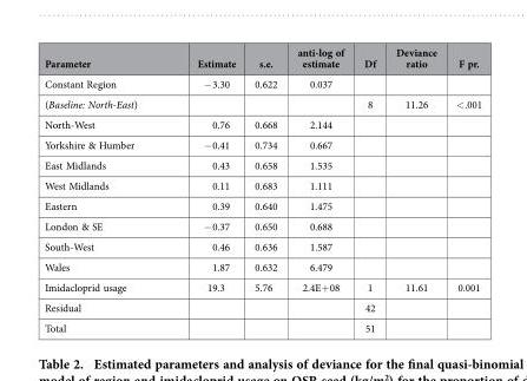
<table><thead><tr><td>Parameter</td><td>Estimate</td><td>s.e.</td><td>anti-log of estimate</td><td>Df</td><td>Deviance ratio</td><td>F pr.</td></tr></thead><tbody><tr><td>Constant Region</td><td>− 3.30</td><td>0.622</td><td>0.037</td><td></td><td></td><td></td></tr><tr><td>(Baseline: North-East)</td><td></td><td></td><td></td><td>8</td><td>11.26</td><td>&lt; .001</td></tr><tr><td>North-West</td><td>0.76</td><td>0.668</td><td>2.144</td><td></td><td></td><td></td></tr><tr><td>Yorkshire &amp; Humber</td><td>− 0.41</td><td>0.734</td><td>0.667</td><td></td><td></td><td></td></tr><tr><td>East Midlands</td><td>0.43</td><td>0.658</td><td>1.535</td><td></td><td></td><td></td></tr><tr><td>West Midlands</td><td>0.11</td><td>0.683</td><td>1.111</td><td></td><td></td><td></td></tr><tr><td>Eastern</td><td>0.39</td><td>0.640</td><td>1.475</td><td></td><td></td><td></td></tr><tr><td>London &amp; SE</td><td>− 0.37</td><td>0.650</td><td>0.688</td><td></td><td></td><td></td></tr><tr><td>South-West</td><td>0.46</td><td>0.636</td><td>1.587</td><td></td><td></td><td></td></tr><tr><td>Wales</td><td>1.87</td><td>0.632</td><td>6.479</td><td></td><td></td><td></td></tr><tr><td>Imidacloprid usage</td><td>19.3</td><td>5.76</td><td>2.4E+ 08</td><td>1</td><td>11.61</td><td>0.001</td></tr><tr><td>Residual</td><td></td><td></td><td></td><td>42</td><td></td><td></td></tr><tr><td>Total</td><td></td><td></td><td></td><td>51</td><td></td><td></td></tr></tbody></table>